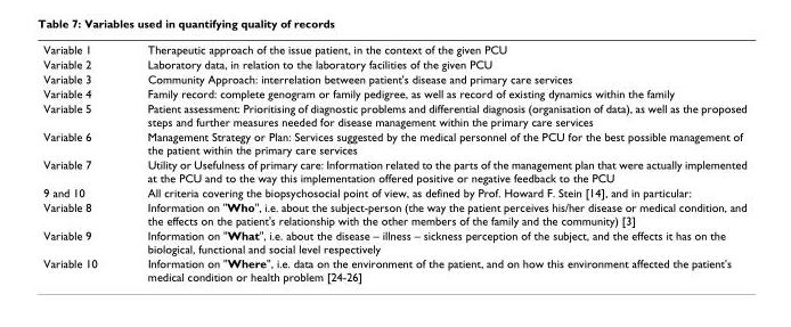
<table><tbody><tr><td>Variable 1</td><td>Therapeutic approach of the issue patient, in the context of the given PCU</td></tr><tr><td>Variable 2</td><td>Laboratory data, in relation to the laboratory facilities of the given PCU</td></tr><tr><td>Variable 3</td><td>Community Approach: interrelation between patient&#x27;s disease and primary care services</td></tr><tr><td>Variable 4</td><td>Family record: complete genogram or family pedigree, as well as record of existing dynamics within the family</td></tr><tr><td>Variable 5</td><td>Patient assessment: Prioritising of diagnostic problems and differential diagnosis (organisation of data), as well as the proposed steps and further measures needed for disease management within the primary care services</td></tr><tr><td>Variable 6</td><td>Management Strategy or Plan: Services suggested by the medical personnel of the PCU for the best possible management of the patient within the primary care services</td></tr><tr><td>Variable 7</td><td>Utility or Usefulness of primary care: Information related to the parts of the management plan that were actually implemented at the PCU and to the way this implementation offered positive or negative feedback to the PCU</td></tr><tr><td>9 and 10</td><td>All criteria covering the biopsychosocial point of view, as defined by Prof. Howard F. Stein [14], and in particular:</td></tr><tr><td>Variable 8</td><td>Information on &quot;Who&quot;, i.e. about the subject-person (the way the patient perceives his/her disease or medical condition, and the effects on the patient&#x27;s relationship with the other members of the family and the community) [3]</td></tr><tr><td>Variable 9</td><td>Information on &quot;What&quot;, i.e. about the disease – illness – sickness perception of the subject, and the effects it has on the biological, functional and social level respectively</td></tr><tr><td>Variable 10</td><td>Information on &quot;Where&quot;, i.e. data on the environment of the patient, and on how this environment affected the patient&#x27;s medical condition or health problem [24-26]</td></tr></tbody></table>